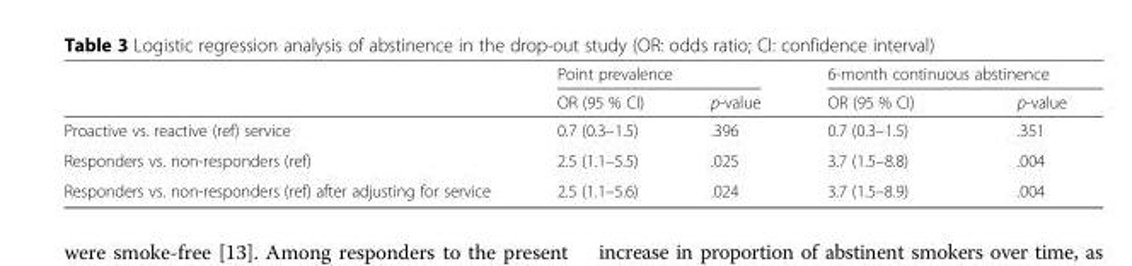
<table><thead><tr><td rowspan="2"></td><td colspan="2">Point prevalence</td><td colspan="2">6-month continuous abstinence</td></tr><tr><td>OR (95 % CI)</td><td>p-value</td><td>OR (95 % CI)</td><td>p-value</td></tr></thead><tbody><tr><td>Proactive vs. reactive (ref) service</td><td>0.7 (0.3–1.5)</td><td>.396</td><td>0.7 (0.3–1.5)</td><td>.351</td></tr><tr><td>Responders vs. non-responders (ref)</td><td>2.5 (1.1–5.5)</td><td>.025</td><td>3.7 (1.5–8.8)</td><td>.004</td></tr><tr><td>Responders vs. non-responders (ref) after adjusting for service</td><td>2.5 (1.1–5.6)</td><td>.024</td><td>3.7 (1.5–8.9)</td><td>.004</td></tr></tbody></table>